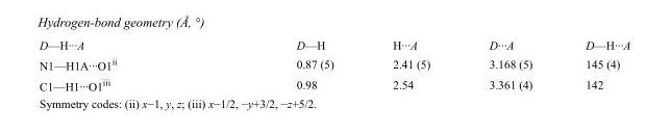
<table><tbody><tr><td>D—H···A</td><td>D—H</td><td>H···A</td><td>D···A</td><td>D—H···A</td></tr><tr><td>N1—H1A···O1<sup>ii</sup></td><td>0.87 (5)</td><td>2.41 (5)</td><td>3.168 (5)</td><td>145 (4)</td></tr><tr><td>C1—H1···O1<sup>iii</sup></td><td>0.98</td><td>2.54</td><td>3.361 (4)</td><td>142</td></tr></tbody></table>